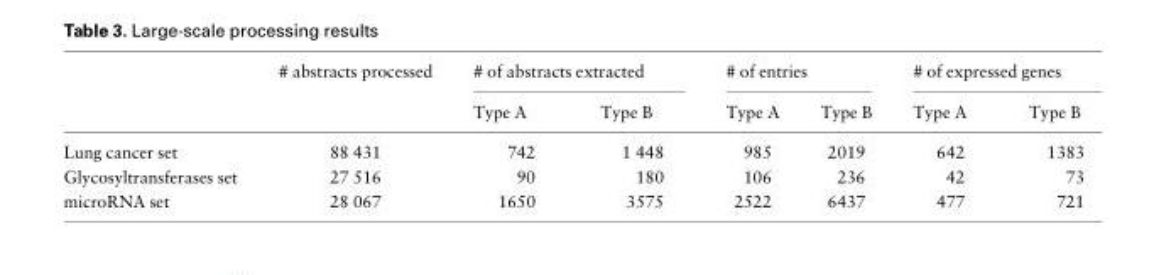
<table><thead><tr><td rowspan="2"></td><td rowspan="2"># abstracts processed</td><td colspan="2"># of abstracts extracted</td><td colspan="2"># of entries</td><td colspan="2"># of expressed genes</td></tr><tr><td>Type A</td><td>Type B</td><td>Type A</td><td>Type B</td><td>Type A</td><td>Type B</td></tr></thead><tbody><tr><td>Lung cancer set</td><td>88 431</td><td>742</td><td>1 448</td><td>985</td><td>2019</td><td>642</td><td>1383</td></tr><tr><td>Glycosyltransferases set</td><td>27 516</td><td>90</td><td>180</td><td>106</td><td>236</td><td>42</td><td>73</td></tr><tr><td>microRNA set</td><td>28 067</td><td>1650</td><td>3575</td><td>2522</td><td>6437</td><td>477</td><td>721</td></tr></tbody></table>